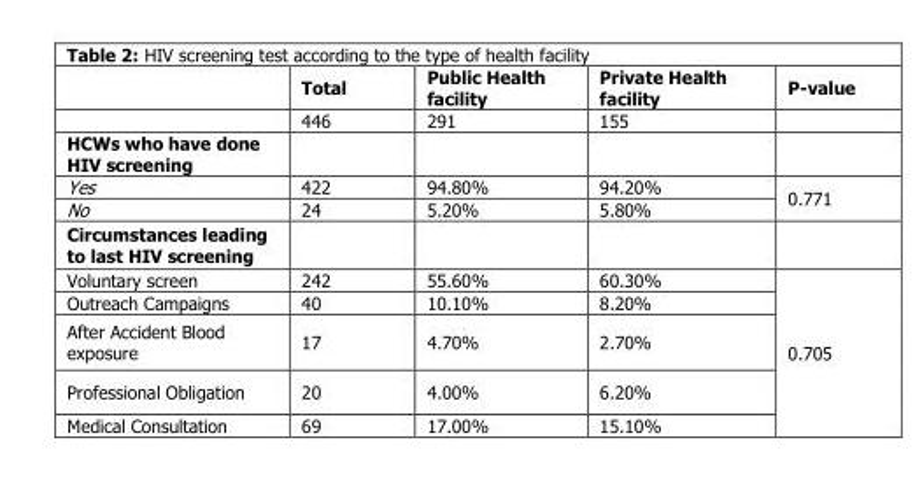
<table><thead><tr><td></td><td>Total</td><td>Public Health facility</td><td>Private Health facility</td><td>P-value</td></tr></thead><tbody><tr><td></td><td>446</td><td>291</td><td>155</td><td></td></tr><tr><td colspan="5">HCWs who have done HIV screening</td></tr><tr><td>Yes</td><td>422</td><td>94.80%</td><td>94.20%</td><td rowspan="2">0.771</td></tr><tr><td>No</td><td>24</td><td>5.20%</td><td>5.80%</td></tr><tr><td colspan="5">Circumstances leading to last HIV screening</td></tr><tr><td>Voluntary screen</td><td>242</td><td>55.60%</td><td>60.30%</td><td rowspan="5">0.705</td></tr><tr><td>Outreach Campaigns</td><td>40</td><td>10.10%</td><td>8.20%</td></tr><tr><td>After Accident Blood exposure</td><td>17</td><td>4.70%</td><td>2.70%</td></tr><tr><td>Professional Obligation</td><td>20</td><td>4.00%</td><td>6.20%</td></tr><tr><td>Medical Consultation</td><td>69</td><td>17.00%</td><td>15.10%</td></tr></tbody></table>